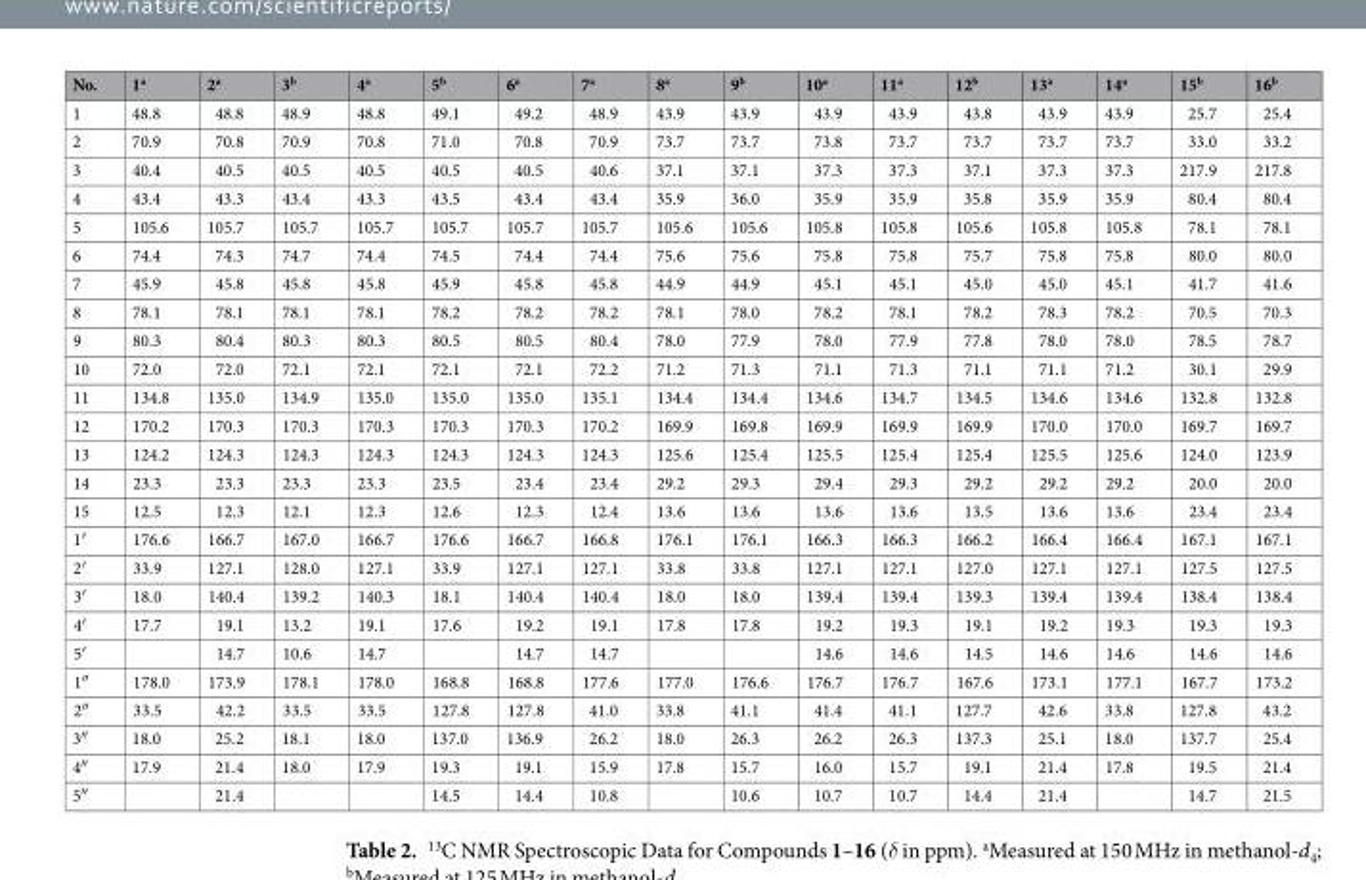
<table><thead><tr><td>No.</td><td>1<sup>a</sup></td><td>2<sup>a</sup></td><td>3<sup>b</sup></td><td>4<sup>a</sup></td><td>5<sup>b</sup></td><td>6<sup>a</sup></td><td>7<sup>a</sup></td><td>8<sup>a</sup></td><td>9<sup>b</sup></td><td>10<sup>a</sup></td><td>11<sup>a</sup></td><td>12<sup>b</sup></td><td>13<sup>a</sup></td><td>14<sup>a</sup></td><td>15<sup>b</sup></td><td>16<sup>b</sup></td></tr></thead><tbody><tr><td>1</td><td>48.8</td><td>48.8</td><td>48.9</td><td>48.8</td><td>49.1</td><td>49.2</td><td>48.9</td><td>43.9</td><td>43.9</td><td>43.9</td><td>43.9</td><td>43.8</td><td>43.9</td><td>43.9</td><td>25.7</td><td>25.4</td></tr><tr><td>2</td><td>70.9</td><td>70.8</td><td>70.9</td><td>70.8</td><td>71.0</td><td>70.8</td><td>70.9</td><td>73.7</td><td>73.7</td><td>73.8</td><td>73.7</td><td>73.7</td><td>73.7</td><td>73.7</td><td>33.0</td><td>33.2</td></tr><tr><td>3</td><td>40.4</td><td>40.5</td><td>40.5</td><td>40.5</td><td>40.5</td><td>40.5</td><td>40.6</td><td>37.1</td><td>37.1</td><td>37.3</td><td>37.3</td><td>37.1</td><td>37.3</td><td>37.3</td><td>217.9</td><td>217.8</td></tr><tr><td>4</td><td>43.4</td><td>43.3</td><td>43.4</td><td>43.3</td><td>43.5</td><td>43.4</td><td>43.4</td><td>35.9</td><td>36.0</td><td>35.9</td><td>35.9</td><td>35.8</td><td>35.9</td><td>35.9</td><td>80.4</td><td>80.4</td></tr><tr><td>5</td><td>105.6</td><td>105.7</td><td>105.7</td><td>105.7</td><td>105.7</td><td>105.7</td><td>105.7</td><td>105.6</td><td>105.6</td><td>105.8</td><td>105.8</td><td>105.6</td><td>105.8</td><td>105.8</td><td>78.1</td><td>78.1</td></tr><tr><td>6</td><td>74.4</td><td>74.3</td><td>74.7</td><td>74.4</td><td>74.5</td><td>74.4</td><td>74.4</td><td>75.6</td><td>75.6</td><td>75.8</td><td>75.8</td><td>75.7</td><td>75.8</td><td>75.8</td><td>80.0</td><td>80.0</td></tr><tr><td>7</td><td>45.9</td><td>45.8</td><td>45.8</td><td>45.8</td><td>45.9</td><td>45.8</td><td>45.8</td><td>44.9</td><td>44.9</td><td>45.1</td><td>45.1</td><td>45.0</td><td>45.0</td><td>45.1</td><td>41.7</td><td>41.6</td></tr><tr><td>8</td><td>78.1</td><td>78.1</td><td>78.1</td><td>78.1</td><td>78.2</td><td>78.2</td><td>78.2</td><td>78.1</td><td>78.0</td><td>78.2</td><td>78.1</td><td>78.2</td><td>78.3</td><td>78.2</td><td>70.5</td><td>70.3</td></tr><tr><td>9</td><td>80.3</td><td>80.4</td><td>80.3</td><td>80.3</td><td>80.5</td><td>80.5</td><td>80.4</td><td>78.0</td><td>77.9</td><td>78.0</td><td>77.9</td><td>77.8</td><td>78.0</td><td>78.0</td><td>78.5</td><td>78.7</td></tr><tr><td>10</td><td>72.0</td><td>72.0</td><td>72.1</td><td>72.1</td><td>72.1</td><td>72.1</td><td>72.2</td><td>71.2</td><td>71.3</td><td>71.1</td><td>71.3</td><td>71.1</td><td>71.1</td><td>71.2</td><td>30.1</td><td>29.9</td></tr><tr><td>11</td><td>134.8</td><td>135.0</td><td>134.9</td><td>135.0</td><td>135.0</td><td>135.0</td><td>135.1</td><td>134.4</td><td>134.4</td><td>134.6</td><td>134.7</td><td>134.5</td><td>134.6</td><td>134.6</td><td>132.8</td><td>132.8</td></tr><tr><td>12</td><td>170.2</td><td>170.3</td><td>170.3</td><td>170.3</td><td>170.3</td><td>170.3</td><td>170.2</td><td>169.9</td><td>169.8</td><td>169.9</td><td>169.9</td><td>169.9</td><td>170.0</td><td>170.0</td><td>169.7</td><td>169.7</td></tr><tr><td>13</td><td>124.2</td><td>124.3</td><td>124.3</td><td>124.3</td><td>124.3</td><td>124.3</td><td>124.3</td><td>125.6</td><td>125.4</td><td>125.5</td><td>125.4</td><td>125.4</td><td>125.5</td><td>125.6</td><td>124.0</td><td>123.9</td></tr><tr><td>14</td><td>23.3</td><td>23.3</td><td>23.3</td><td>23.3</td><td>23.5</td><td>23.4</td><td>23.4</td><td>29.2</td><td>29.3</td><td>29.4</td><td>29.3</td><td>29.2</td><td>29.2</td><td>29.2</td><td>20.0</td><td>20.0</td></tr><tr><td>15</td><td>12.5</td><td>12.3</td><td>12.1</td><td>12.3</td><td>12.6</td><td>12.3</td><td>12.4</td><td>13.6</td><td>13.6</td><td>13.6</td><td>13.6</td><td>13.5</td><td>13.6</td><td>13.6</td><td>23.4</td><td>23.4</td></tr><tr><td>1′</td><td>176.6</td><td>166.7</td><td>167.0</td><td>166.7</td><td>176.6</td><td>166.7</td><td>166.8</td><td>176.1</td><td>176.1</td><td>166.3</td><td>166.3</td><td>166.2</td><td>166.4</td><td>166.4</td><td>167.1</td><td>167.1</td></tr><tr><td>2′</td><td>33.9</td><td>127.1</td><td>128.0</td><td>127.1</td><td>33.9</td><td>127.1</td><td>127.1</td><td>33.8</td><td>33.8</td><td>127.1</td><td>127.1</td><td>127.0</td><td>127.1</td><td>127.1</td><td>127.5</td><td>127.5</td></tr><tr><td>3′</td><td>18.0</td><td>140.4</td><td>139.2</td><td>140.3</td><td>18.1</td><td>140.4</td><td>140.4</td><td>18.0</td><td>18.0</td><td>139.4</td><td>139.4</td><td>139.3</td><td>139.4</td><td>139.4</td><td>138.4</td><td>138.4</td></tr><tr><td>4′</td><td>17.7</td><td>19.1</td><td>13.2</td><td>19.1</td><td>17.6</td><td>19.2</td><td>19.1</td><td>17.8</td><td>17.8</td><td>19.2</td><td>19.3</td><td>19.1</td><td>19.2</td><td>19.3</td><td>19.3</td><td>19.3</td></tr><tr><td>5′</td><td></td><td>14.7</td><td>10.6</td><td>14.7</td><td></td><td>14.7</td><td>14.7</td><td></td><td></td><td>14.6</td><td>14.6</td><td>14.5</td><td>14.6</td><td>14.6</td><td>14.6</td><td>14.6</td></tr><tr><td>1″</td><td>178.0</td><td>173.9</td><td>178.1</td><td>178.0</td><td>168.8</td><td>168.8</td><td>177.6</td><td>177.0</td><td>176.6</td><td>176.7</td><td>176.7</td><td>167.6</td><td>173.1</td><td>177.1</td><td>167.7</td><td>173.2</td></tr><tr><td>2″</td><td>33.5</td><td>42.2</td><td>33.5</td><td>33.5</td><td>127.8</td><td>127.8</td><td>41.0</td><td>33.8</td><td>41.1</td><td>41.4</td><td>41.1</td><td>127.7</td><td>42.6</td><td>33.8</td><td>127.8</td><td>43.2</td></tr><tr><td>3″</td><td>18.0</td><td>25.2</td><td>18.1</td><td>18.0</td><td>137.0</td><td>136.9</td><td>26.2</td><td>18.0</td><td>26.3</td><td>26.2</td><td>26.3</td><td>137.3</td><td>25.1</td><td>18.0</td><td>137.7</td><td>25.4</td></tr><tr><td>4″</td><td>17.9</td><td>21.4</td><td>18.0</td><td>17.9</td><td>19.3</td><td>19.1</td><td>15.9</td><td>17.8</td><td>15.7</td><td>16.0</td><td>15.7</td><td>19.1</td><td>21.4</td><td>17.8</td><td>19.5</td><td>21.4</td></tr><tr><td>5″</td><td></td><td>21.4</td><td></td><td></td><td>14.5</td><td>14.4</td><td>10.8</td><td></td><td>10.6</td><td>10.7</td><td>10.7</td><td>14.4</td><td>21.4</td><td></td><td>14.7</td><td>21.5</td></tr></tbody></table>